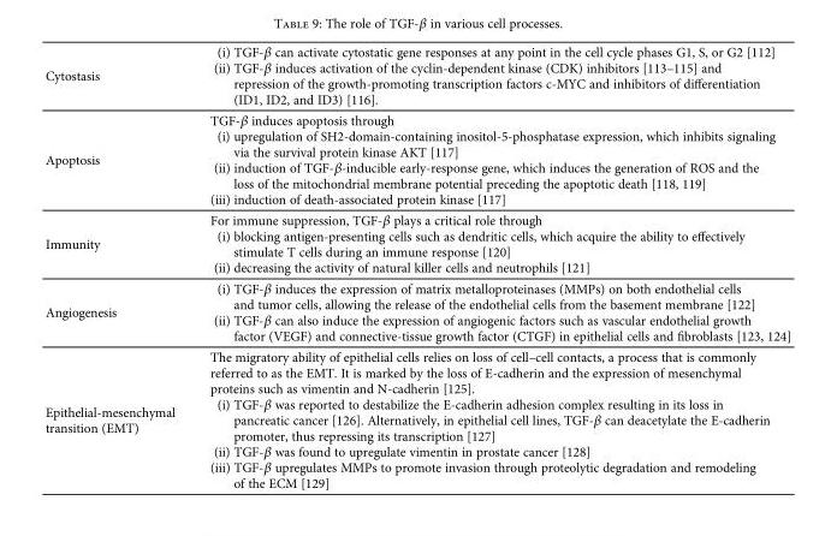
<table><tbody><tr><td>Cytostasis</td><td>(i) TGF-β can activate cytostatic gene responses at any point in the cell cycle phases G1, S, or G2 [112] (ii) TGF-β induces activation of the cyclin-dependent kinase (CDK) inhibitors [113–115] and repression of the growth-promoting transcription factors c-MYC and inhibitors of differentiation (ID1, ID2, and ID3) [116].</td></tr><tr><td>Apoptosis</td><td>TGF-β induces apoptosis through (i) upregulation of SH2-domain-containing inositol-5-phosphatase expression, which inhibits signaling via the survival protein kinase AKT [117] (ii) induction of TGF-β-inducible early-response gene, which induces the generation of ROS and the loss of the mitochondrial membrane potential preceding the apoptotic death [118, 119] (iii) induction of death-associated protein kinase [117]</td></tr><tr><td>Immunity</td><td>For immune suppression, TGF-β plays a critical role through (i) blocking antigen-presenting cells such as dendritic cells, which acquire the ability to effectively stimulate T cells during an immune response [120] (ii) decreasing the activity of natural killer cells and neutrophils [121]</td></tr><tr><td>Angiogenesis</td><td>(i) TGF-β induces the expression of matrix metalloproteinases (MMPs) on both endothelial cells and tumor cells, allowing the release of the endothelial cells from the basement membrane [122] (ii) TGF-β can also induce the expression of angiogenic factors such as vascular endothelial growth factor (VEGF) and connective-tissue growth factor (CTGF) in epithelial cells and fibroblasts [123, 124]</td></tr><tr><td>Epithelial-mesenchymal transition (EMT)</td><td>The migratory ability of epithelial cells relies on loss of cell–cell contacts, a process that is commonly referred to as the EMT. It is marked by the loss of E-cadherin and the expression of mesenchymal proteins such as vimentin and N-cadherin [125]. (i) TGF-β was reported to destabilize the E-cadherin adhesion complex resulting in its loss in pancreatic cancer [126]. Alternatively, in epithelial cell lines, TGF-β can deacetylate the E-cadherin promoter, thus repressing its transcription [127] (ii) TGF-β was found to upregulate vimentin in prostate cancer [128] (iii) TGF-β upregulates MMPs to promote invasion through proteolytic degradation and remodeling of the ECM [129]</td></tr></tbody></table>